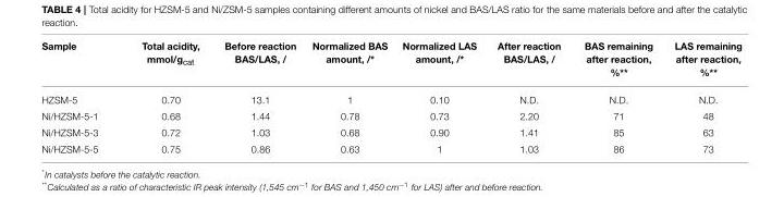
<table><thead><tr><td>Sample</td><td>Total acidity, mmol/g<sub>cat</sub></td><td>Before reaction BAS/LAS, /</td><td>Normalized BAS amount, /*</td><td>Normalized LAS amount, /*</td><td>After reaction BAS/LAS, /</td><td>BAS remaining after reaction, %**</td><td>LAS remaining after reaction, %**</td></tr></thead><tbody><tr><td>HZSM-5</td><td>0.70</td><td>13.1</td><td>1</td><td>0.10</td><td>N.D.</td><td>N.D.</td><td>N.D.</td></tr><tr><td>Ni/HZSM-5-1</td><td>0.68</td><td>1.44</td><td>0.78</td><td>0.73</td><td>2.20</td><td>71</td><td>48</td></tr><tr><td>Ni/HZSM-5-3</td><td>0.72</td><td>1.03</td><td>0.68</td><td>0.90</td><td>1.41</td><td>85</td><td>63</td></tr><tr><td>Ni/HZSM-5-5</td><td>0.75</td><td>0.86</td><td>0.63</td><td>1</td><td>1.03</td><td>86</td><td>73</td></tr></tbody></table>